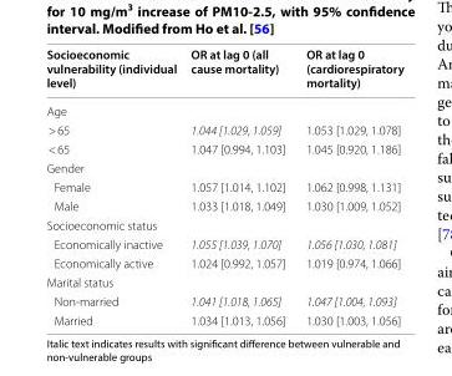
<table><thead><tr><td>Socioeconomic vulnerability (individual level)</td><td>OR at lag 0 (all cause mortality)</td><td>OR at lag 0 (cardiorespiratory mortality)</td></tr></thead><tbody><tr><td colspan="3">Age</td></tr><tr><td>&gt; 65</td><td>1.044 [1.029, 1.059]</td><td>1.053 [1.029, 1.078]</td></tr><tr><td>&lt; 65</td><td>1.047 [0.994, 1.103]</td><td>1.045 [0.920, 1.186]</td></tr><tr><td colspan="3">Gender</td></tr><tr><td>Female</td><td>1.057 [1.014, 1.102]</td><td>1.062 [0.998, 1.131]</td></tr><tr><td>Male</td><td>1.033 [1.018, 1.049]</td><td>1.030 [1.009, 1.052]</td></tr><tr><td colspan="3">Socioeconomic status</td></tr><tr><td>Economically inactive</td><td>1.055 [1.039, 1.070]</td><td>1.056 [1.030, 1.081]</td></tr><tr><td>Economically active</td><td>1.024 [0.992, 1.057]</td><td>1.019 [0.974, 1.066]</td></tr><tr><td colspan="3">Marital status</td></tr><tr><td>Non-married</td><td>1.041 [1.018, 1.065]</td><td>1.047 [1.004, 1.093]</td></tr><tr><td>Married</td><td>1.034 [1.013, 1.056]</td><td>1.030 [1.003, 1.056]</td></tr></tbody></table>